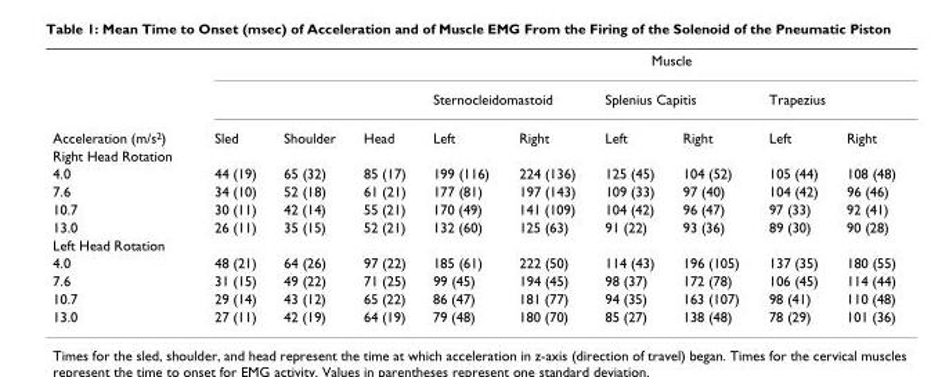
<table><thead><tr><td rowspan="3">Acceleration (m/s<sup>2</sup>)</td><td rowspan="3">Sled</td><td rowspan="3">Shoulder</td><td rowspan="3">Head</td><td colspan="6">Muscle</td></tr><tr><td colspan="2">Sternocleidomastoid</td><td colspan="2">Splenius Capitis</td><td colspan="2">Trapezius</td></tr><tr><td>Left</td><td>Right</td><td>Left</td><td>Right</td><td>Left</td><td>Right</td></tr></thead><tbody><tr><td colspan="10">Right Head Rotation</td></tr><tr><td>4.0</td><td>44 (19)</td><td>65 (32)</td><td>85 (17)</td><td>199 (116)</td><td>224 (136)</td><td>125 (45)</td><td>104 (52)</td><td>105 (44)</td><td>108 (48)</td></tr><tr><td>7.6</td><td>34 (10)</td><td>52 (18)</td><td>61 (21)</td><td>177 (81)</td><td>197 (143)</td><td>109 (33)</td><td>97 (40)</td><td>104 (42)</td><td>96 (46)</td></tr><tr><td>10.7</td><td>30 (11)</td><td>42 (14)</td><td>55 (21)</td><td>170 (49)</td><td>141 (109)</td><td>104 (42)</td><td>96 (47)</td><td>97 (33)</td><td>92 (41)</td></tr><tr><td>13.0</td><td>26 (11)</td><td>35 (15)</td><td>52 (21)</td><td>132 (60)</td><td>125 (63)</td><td>91 (22)</td><td>93 (36)</td><td>89 (30)</td><td>90 (28)</td></tr><tr><td colspan="10">Left Head Rotation</td></tr><tr><td>4.0</td><td>48 (21)</td><td>64 (26)</td><td>97 (22)</td><td>185 (61)</td><td>222 (50)</td><td>114 (43)</td><td>196 (105)</td><td>137 (35)</td><td>180 (55)</td></tr><tr><td>7.6</td><td>31 (15)</td><td>49 (22)</td><td>71 (25)</td><td>99 (45)</td><td>194 (45)</td><td>98 (37)</td><td>172 (78)</td><td>106 (45)</td><td>114 (44)</td></tr><tr><td>10.7</td><td>29 (14)</td><td>43 (12)</td><td>65 (22)</td><td>86 (47)</td><td>181 (77)</td><td>94 (35)</td><td>163 (107)</td><td>98 (41)</td><td>110 (48)</td></tr><tr><td>13.0</td><td>27 (11)</td><td>42 (19)</td><td>64 (19)</td><td>79 (48)</td><td>180 (70)</td><td>85 (27)</td><td>138 (48)</td><td>78 (29)</td><td>101 (36)</td></tr></tbody></table>